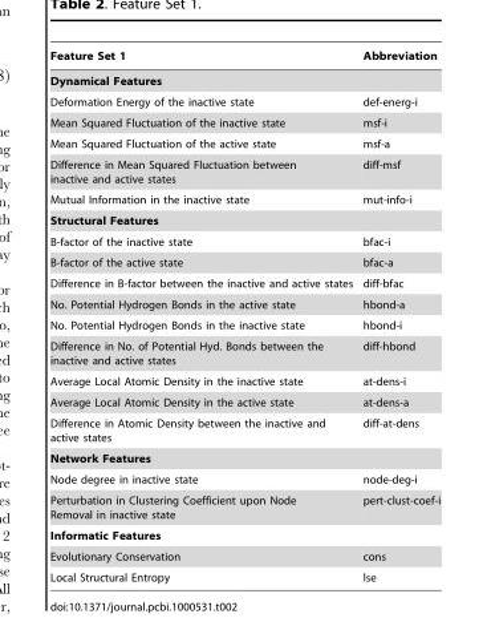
<table><thead><tr><td>Feature Set 1</td><td>Abbreviation</td></tr></thead><tbody><tr><td colspan="2">Dynamical Features</td></tr><tr><td>Deformation Energy of the inactive state</td><td>def-energ-i</td></tr><tr><td>Mean Squared Fluctuation of the inactive state</td><td>msf-i</td></tr><tr><td>Mean Squared Fluctuation of the active state</td><td>msf-a</td></tr><tr><td>Difference in Mean Squared Fluctuation between inactive and active states</td><td>diff-msf</td></tr><tr><td>Mutual Information in the inactive state</td><td>mut-info-i</td></tr><tr><td colspan="2">Structural Features</td></tr><tr><td>B-factor of the inactive state</td><td>bfac-i</td></tr><tr><td>B-factor of the active state</td><td>bfac-a</td></tr><tr><td>Difference in B-factor between the inactive and active states</td><td>diff-bfac</td></tr><tr><td>No. Potential Hydrogen Bonds in the active state</td><td>hbond-a</td></tr><tr><td>No. Potential Hydrogen Bonds in the inactive state</td><td>hbond-i</td></tr><tr><td>Difference in No. of Potential Hyd. Bonds between the inactive and active states</td><td>diff-hbond</td></tr><tr><td>Average Local Atomic Density in the inactive state</td><td>at-dens-i</td></tr><tr><td>Average Local Atomic Density in the active state</td><td>at-dens-a</td></tr><tr><td>Difference in Atomic Density between the inactive and active states</td><td>diff-at-dens</td></tr><tr><td colspan="2">Network Features</td></tr><tr><td>Node degree in inactive state</td><td>node-deg-i</td></tr><tr><td>Perturbation in Clustering Coefficient upon Node Removal in inactive state</td><td>pert-clust-coef-i</td></tr><tr><td colspan="2">Informatic Features</td></tr><tr><td>Evolutionary Conservation</td><td>cons</td></tr><tr><td>Local Structural Entropy</td><td>lse</td></tr></tbody></table>